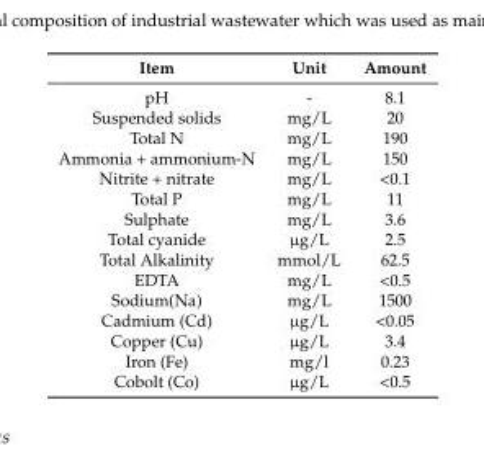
<table><thead><tr><td>Item</td><td>Unit</td><td>Amount</td></tr></thead><tbody><tr><td>pH</td><td>-</td><td>8.1</td></tr><tr><td>Suspended solids</td><td>mg/L</td><td>20</td></tr><tr><td>Total N</td><td>mg/L</td><td>190</td></tr><tr><td>Ammonia + ammonium-N</td><td>mg/L</td><td>150</td></tr><tr><td>Nitrite + nitrate</td><td>mg/L</td><td>&lt;0.1</td></tr><tr><td>Total P</td><td>mg/L</td><td>11</td></tr><tr><td>Sulphate</td><td>mg/L</td><td>3.6</td></tr><tr><td>Total cyanide</td><td>µg/L</td><td>2.5</td></tr><tr><td>Total Alkalinity</td><td>mmol/L</td><td>62.5</td></tr><tr><td>EDTA</td><td>mg/L</td><td>&lt;0.5</td></tr><tr><td>Sodium(Na)</td><td>mg/L</td><td>1500</td></tr><tr><td>Cadmium (Cd)</td><td>µg/L</td><td>&lt;0.05</td></tr><tr><td>Copper (Cu)</td><td>µg/L</td><td>3.4</td></tr><tr><td>Iron (Fe)</td><td>mg/l</td><td>0.23</td></tr><tr><td>Cobolt (Co)</td><td>µg/L</td><td>&lt;0.5</td></tr></tbody></table>